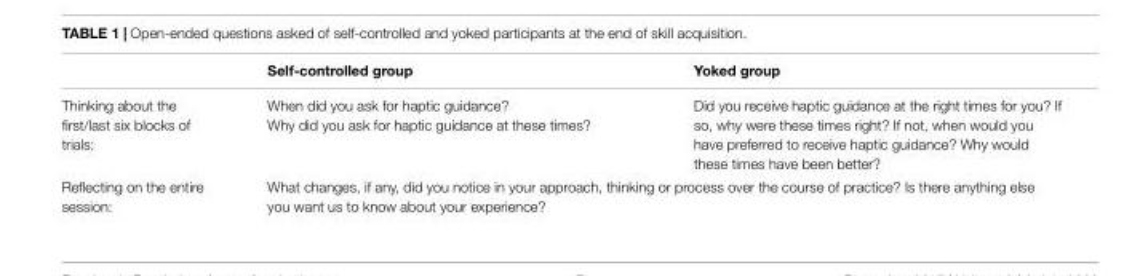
<table><thead><tr><td></td><td>Self-controlled group</td><td>Yoked group</td></tr></thead><tbody><tr><td>Thinking about the first/last six blocks of trials:</td><td>When did you ask for haptic guidance? Why did you ask for haptic guidance at these times?</td><td>Did you receive haptic guidance at the right times for you? If so, why were these times right? If not, when would you have preferred to receive haptic guidance? Why would these times have been better?</td></tr><tr><td>Reflecting on the entire session:</td><td colspan="2">What changes, if any, did you notice in your approach, thinking or process over the course of practice? Is there anything else you want us to know about your experience?</td></tr></tbody></table>